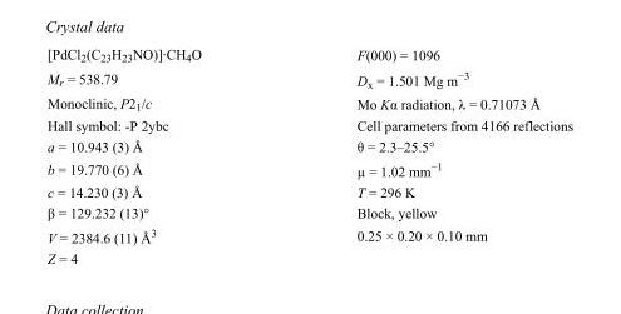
<table><tbody><tr><td>[PdCl<sub>2</sub>(C<sub>23</sub>H<sub>23</sub>NO)]·CH<sub>4</sub>O</td><td>F(000) = 1096</td></tr><tr><td>M<sub>r</sub> = 538.79</td><td>D<sub>x</sub> = 1.501 Mg m<sup>−3</sup></td></tr><tr><td>Monoclinic, P2<sub>1</sub>/c</td><td>Mo Kα radiation, λ = 0.71073 Å</td></tr><tr><td>Hall symbol: -P 2ybc</td><td>Cell parameters from 4166 reflections</td></tr><tr><td>a = 10.943 (3) Å</td><td>θ = 2.3–25.5°</td></tr><tr><td>b = 19.770 (6) Å</td><td>µ = 1.02 mm<sup>−1</sup></td></tr><tr><td>c = 14.230 (3) Å</td><td>T = 296 K</td></tr><tr><td>β = 129.232 (13)°</td><td>Block, yellow</td></tr><tr><td>V = 2384.6 (11) Å<sup>3</sup></td><td>0.25 × 0.20 × 0.10 mm</td></tr><tr><td>Z = 4</td><td></td></tr></tbody></table>